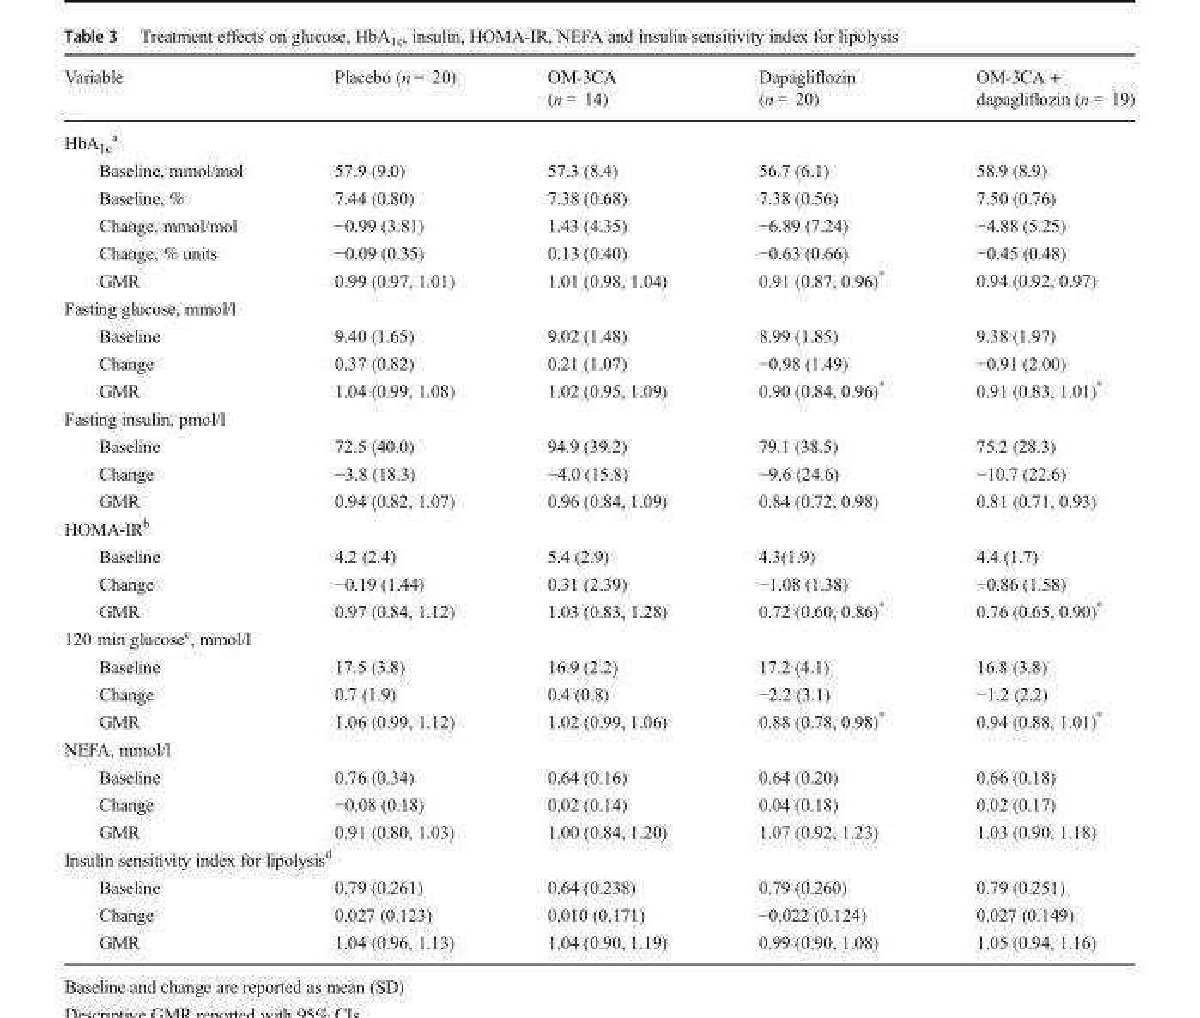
<table><thead><tr><td>Variable</td><td>Placebo (n = 20)</td><td>OM-3CA (n = 14)</td><td>Dapagliflozin (n = 20)</td><td>OM-3CA + dapagliflozin (n = 19)</td></tr></thead><tbody><tr><td colspan="5">HbA<sub>1c</sub> <sup>a</sup></td></tr><tr><td>Baseline, mmol/mol</td><td>57.9 (9.0)</td><td>57.3 (8.4)</td><td>56.7 (6.1)</td><td>58.9 (8.9)</td></tr><tr><td>Baseline, %</td><td>7.44 (0.80)</td><td>7.38 (0.68)</td><td>7.38 (0.56)</td><td>7.50 (0.76)</td></tr><tr><td>Change, mmol/mol</td><td>−0.99 (3.81)</td><td>1.43 (4.35)</td><td>−6.89 (7.24)</td><td>−4.88 (5.25)</td></tr><tr><td>Change, % units</td><td>−0.09 (0.35)</td><td>0.13 (0.40)</td><td>−0.63 (0.66)</td><td>−0.45 (0.48)</td></tr><tr><td>GMR</td><td>0.99 (0.97, 1.01)</td><td>1.01 (0.98, 1.04)</td><td>0.91 (0.87, 0.96)*</td><td>0.94 (0.92, 0.97)</td></tr><tr><td colspan="5">Fasting glucose, mmol/l</td></tr><tr><td>Baseline</td><td>9.40 (1.65)</td><td>9.02 (1.48)</td><td>8.99 (1.85)</td><td>9.38 (1.97)</td></tr><tr><td>Change</td><td>0.37 (0.82)</td><td>0.21 (1.07)</td><td>−0.98 (1.49)</td><td>−0.91 (2.00)</td></tr><tr><td>GMR</td><td>1.04 (0.99, 1.08)</td><td>1.02 (0.95, 1.09)</td><td>0.90 (0.84, 0.96)*</td><td>0.91 (0.83, 1.01)*</td></tr><tr><td colspan="5">Fasting insulin, pmol/l</td></tr><tr><td>Baseline</td><td>72.5 (40.0)</td><td>94.9 (39.2)</td><td>79.1 (38.5)</td><td>75.2 (28.3)</td></tr><tr><td>Change</td><td>−3.8 (18.3)</td><td>−4.0 (15.8)</td><td>−9.6 (24.6)</td><td>−10.7 (22.6)</td></tr><tr><td>GMR</td><td>0.94 (0.82, 1.07)</td><td>0.96 (0.84, 1.09)</td><td>0.84 (0.72, 0.98)</td><td>0.81 (0.71, 0.93)</td></tr><tr><td colspan="5">HOMA-IR<sup>b</sup></td></tr><tr><td>Baseline</td><td>4.2 (2.4)</td><td>5.4 (2.9)</td><td>4.3(1.9)</td><td>4.4 (1.7)</td></tr><tr><td>Change</td><td>−0.19 (1.44)</td><td>0.31 (2.39)</td><td>−1.08 (1.38)</td><td>−0.86 (1.58)</td></tr><tr><td>GMR</td><td>0.97 (0.84, 1.12)</td><td>1.03 (0.83, 1.28)</td><td>0.72 (0.60, 0.86)*</td><td>0.76 (0.65, 0.90)*</td></tr><tr><td colspan="5">120 min glucose<sup>c</sup>, mmol/l</td></tr><tr><td>Baseline</td><td>17.5 (3.8)</td><td>16.9 (2.2)</td><td>17.2 (4.1)</td><td>16.8 (3.8)</td></tr><tr><td>Change</td><td>0.7 (1.9)</td><td>0.4 (0.8)</td><td>−2.2 (3.1)</td><td>−1.2 (2.2)</td></tr><tr><td>GMR</td><td>1.06 (0.99, 1.12)</td><td>1.02 (0.99, 1.06)</td><td>0.88 (0.78, 0.98)*</td><td>0.94 (0.88, 1.01)*</td></tr><tr><td colspan="5">NEFA, mmol/l</td></tr><tr><td>Baseline</td><td>0.76 (0.34)</td><td>0.64 (0.16)</td><td>0.64 (0.20)</td><td>0.66 (0.18)</td></tr><tr><td>Change</td><td>−0.08 (0.18)</td><td>0.02 (0.14)</td><td>0.04 (0.18)</td><td>0.02 (0.17)</td></tr><tr><td>GMR</td><td>0.91 (0.80, 1.03)</td><td>1.00 (0.84, 1.20)</td><td>1.07 (0.92, 1.23)</td><td>1.03 (0.90, 1.18)</td></tr><tr><td colspan="5">Insulin sensitivity index for lipolysis<sup>d</sup></td></tr><tr><td>Baseline</td><td>0.79 (0.261)</td><td>0.64 (0.238)</td><td>0.79 (0.260)</td><td>0.79 (0.251)</td></tr><tr><td>Change</td><td>0.027 (0.123)</td><td>0.010 (0.171)</td><td>−0.022 (0.124)</td><td>0.027 (0.149)</td></tr><tr><td>GMR</td><td>1.04 (0.96, 1.13)</td><td>1.04 (0.90, 1.19)</td><td>0.99 (0.90, 1.08)</td><td>1.05 (0.94, 1.16)</td></tr></tbody></table>